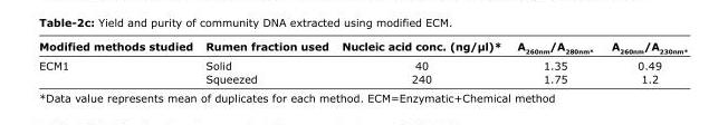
<table><thead><tr><td>Modified methods studied</td><td>Rumen fraction used</td><td>Nucleic acid conc. (ng/µl)*</td><td>A<sub>260nm</sub>/A<sub>280nm*</sub></td><td>A<sub>260nm</sub>/A<sub>230nm*</sub></td></tr></thead><tbody><tr><td rowspan="2">ECM1</td><td>Solid</td><td>40</td><td>1.35</td><td>0.49</td></tr><tr><td>Squeezed</td><td>240</td><td>1.75</td><td>1.2</td></tr></tbody></table>